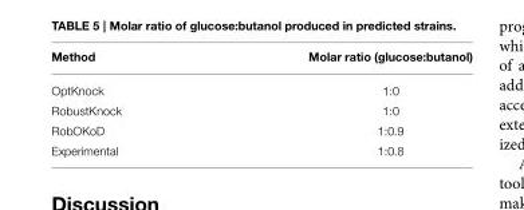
<table><thead><tr><td>Method</td><td>Molar ratio (glucose:butanol)</td></tr></thead><tbody><tr><td>OptKnock</td><td>1:0</td></tr><tr><td>RobustKnock</td><td>1:0</td></tr><tr><td>RobOKoD</td><td>1:0.9</td></tr><tr><td>Experimental</td><td>1:0.8</td></tr></tbody></table>